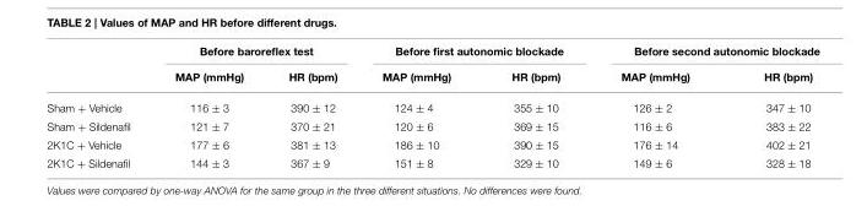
<table><thead><tr><td rowspan="2"></td><td colspan="2">Before baroreflex test</td><td colspan="2">Before first autonomic blockade</td><td colspan="2">Before second autonomic blockade</td></tr><tr><td>MAP (mmHg)</td><td>HR (bpm)</td><td>MAP (mmHg)</td><td>HR (bpm)</td><td>MAP (mmHg)</td><td>HR (bpm)</td></tr></thead><tbody><tr><td>Sham + Vehicle</td><td>116 ± 3</td><td>390 ± 12</td><td>124 ± 4</td><td>355 ± 10</td><td>126 ± 2</td><td>347 ± 10</td></tr><tr><td>Sham + Sildenafil</td><td>121 ± 7</td><td>370 ± 21</td><td>120 ± 6</td><td>369 ± 15</td><td>116 ± 6</td><td>383 ± 22</td></tr><tr><td>2K1C + Vehicle</td><td>177 ± 6</td><td>381 ± 13</td><td>186 ± 10</td><td>390 ± 15</td><td>176 ± 14</td><td>402 ± 21</td></tr><tr><td>2K1C + Sildenafil</td><td>144 ± 3</td><td>367 ± 9</td><td>151 ± 8</td><td>329 ± 10</td><td>149 ± 6</td><td>328 ± 18</td></tr></tbody></table>